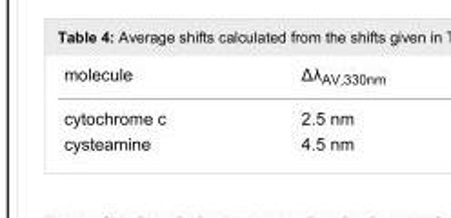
<table><tbody><tr><td>molecule</td><td>Δλ<sub>AV,330nm</sub></td></tr><tr><td>cytochrome c</td><td>2.5 nm</td></tr><tr><td>cysteamine</td><td>4.5 nm</td></tr></tbody></table>